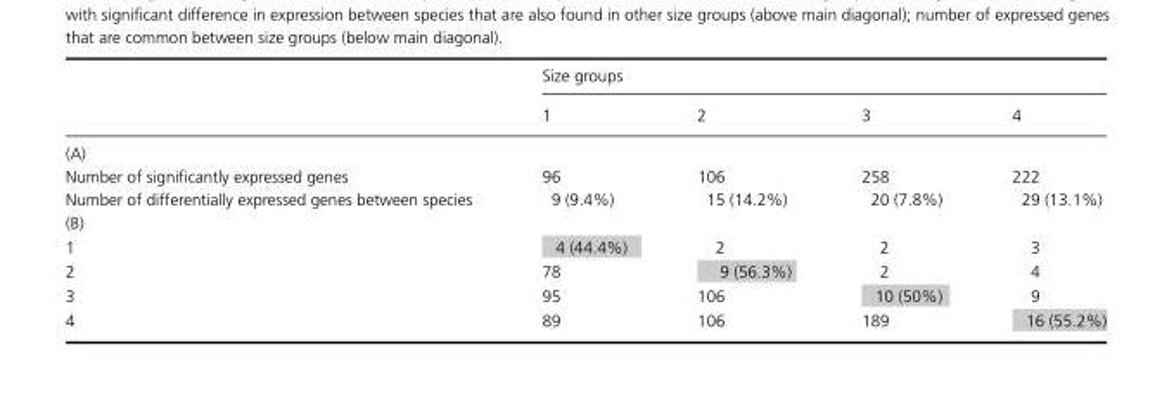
<table><thead><tr><td rowspan="2"></td><td colspan="4">Size groups</td></tr><tr><td>1</td><td>2</td><td>3</td><td>4</td></tr></thead><tbody><tr><td colspan="5">(A)</td></tr><tr><td>Number of significantly expressed genes</td><td>96</td><td>106</td><td>258</td><td>222</td></tr><tr><td>Number of differentially expressed genes between species</td><td>9 (9.4%)</td><td>15 (14.2%)</td><td>20 (7.8%)</td><td>29 (13.1%)</td></tr><tr><td colspan="5">(B)</td></tr><tr><td>1</td><td>4 (44.4%)</td><td>2</td><td>2</td><td>3</td></tr><tr><td>2</td><td>78</td><td>9 (56.3%)</td><td>2</td><td>4</td></tr><tr><td>3</td><td>95</td><td>106</td><td>10 (50%)</td><td>9</td></tr><tr><td>4</td><td>89</td><td>106</td><td>189</td><td>16 (55.2%)</td></tr></tbody></table>